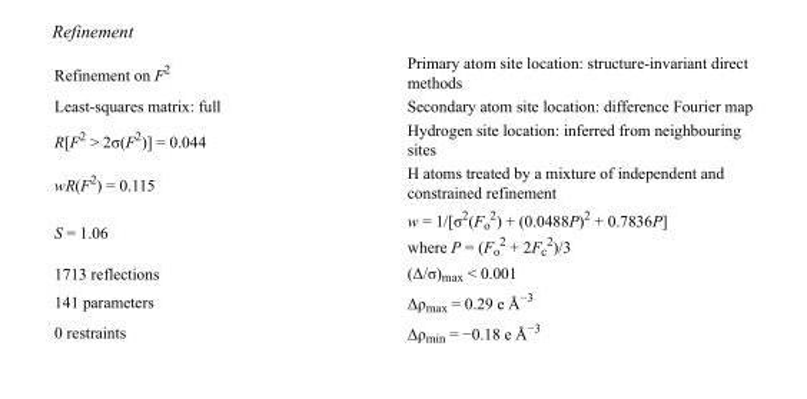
<table><tbody><tr><td>Refinement on F<sup>2</sup></td><td>Primary atom site location: structure-invariant direct methods</td></tr><tr><td>Least-squares matrix: full</td><td>Secondary atom site location: difference Fourier map</td></tr><tr><td>R[F<sup>2</sup> &gt; 2σ(F<sup>2</sup>)] = 0.044</td><td>Hydrogen site location: inferred from neighbouring sites</td></tr><tr><td>wR(F<sup>2</sup>) = 0.115</td><td>H atoms treated by a mixture of independent and constrained refinement</td></tr><tr><td>S = 1.06</td><td>w = 1/[σ<sup>2</sup>(F<sub>o</sub> <sup>2</sup>) + (0.0488P)<sup>2</sup> + 0.7836P] where P = (F<sub>o</sub> <sup>2</sup> + 2F<sub>c</sub> <sup>2</sup>)/3</td></tr><tr><td>1713 reflections</td><td>(Δ/σ)<sub>max</sub> &lt; 0.001</td></tr><tr><td>141 parameters</td><td>Δρ<sub>max</sub> = 0.29 e Å<sup>−3</sup></td></tr><tr><td>0 restraints</td><td>Δρ<sub>min</sub> = −0.18 e Å<sup>−3</sup></td></tr></tbody></table>